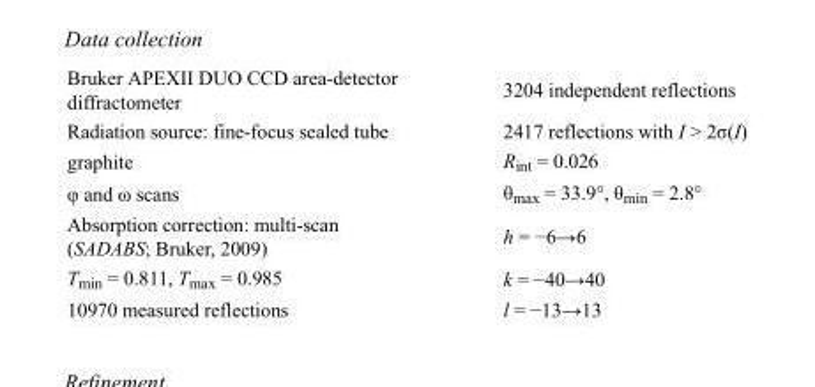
<table><tbody><tr><td>Bruker APEXII DUO CCD area-detector diffractometer</td><td>3204 independent reflections</td></tr><tr><td>Radiation source: fine-focus sealed tube</td><td>2417 reflections with I &gt; 2σ(I)</td></tr><tr><td>graphite</td><td>R<sub>int</sub> = 0.026</td></tr><tr><td>φ and ω scans</td><td>θ<sub>max</sub> = 33.9°, θ<sub>min</sub> = 2.8°</td></tr><tr><td>Absorption correction: multi-scan (SADABS; Bruker, 2009)</td><td>h = −6→6</td></tr><tr><td>T<sub>min</sub> = 0.811, T<sub>max</sub> = 0.985</td><td>k = −40→40</td></tr><tr><td>10970 measured reflections</td><td>l = −13→13</td></tr></tbody></table>